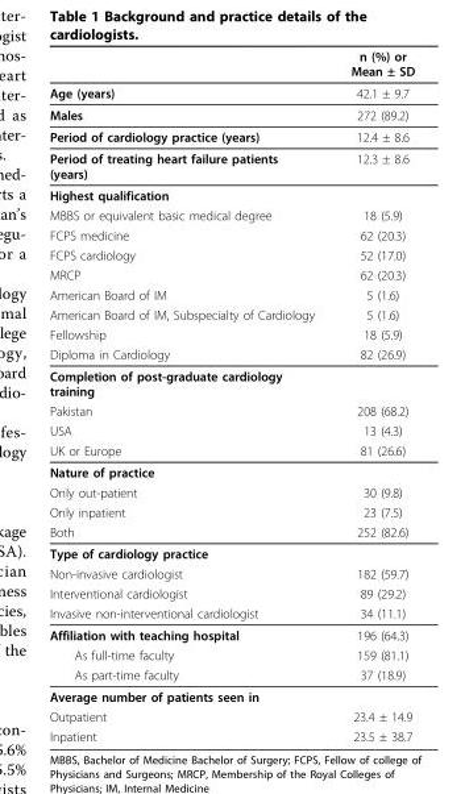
<table><thead><tr><td></td><td>n (%) or Mean ± SD</td></tr></thead><tbody><tr><td>Age (years)</td><td>42.1 ± 9.7</td></tr><tr><td>Males</td><td>272 (89.2)</td></tr><tr><td>Period of cardiology practice (years)</td><td>12.4 ± 8.6</td></tr><tr><td>Period of treating heart failure patients (years)</td><td>12.3 ± 8.6</td></tr><tr><td colspan="2">Highest qualification</td></tr><tr><td>MBBS or equivalent basic medical degree</td><td>18 (5.9)</td></tr><tr><td>FCPS medicine</td><td>62 (20.3)</td></tr><tr><td>FCPS cardiology</td><td>52 (17.0)</td></tr><tr><td>MRCP</td><td>62 (20.3)</td></tr><tr><td>American Board of IM</td><td>5 (1.6)</td></tr><tr><td>American Board of IM, Subspecialty of Cardiology</td><td>5 (1.6)</td></tr><tr><td>Fellowship</td><td>18 (5.9)</td></tr><tr><td>Diploma in Cardiology</td><td>82 (26.9)</td></tr><tr><td colspan="2">Completion of post-graduate cardiology training</td></tr><tr><td>Pakistan</td><td>208 (68.2)</td></tr><tr><td>USA</td><td>13 (4.3)</td></tr><tr><td>UK or Europe</td><td>81 (26.6)</td></tr><tr><td colspan="2">Nature of practice</td></tr><tr><td>Only out-patient</td><td>30 (9.8)</td></tr><tr><td>Only inpatient</td><td>23 (7.5)</td></tr><tr><td>Both</td><td>252 (82.6)</td></tr><tr><td colspan="2">Type of cardiology practice</td></tr><tr><td>Non-invasive cardiologist</td><td>182 (59.7)</td></tr><tr><td>Interventional cardiologist</td><td>89 (29.2)</td></tr><tr><td>Invasive non-interventional cardiologist</td><td>34 (11.1)</td></tr><tr><td>Affiliation with teaching hospital</td><td>196 (64.3)</td></tr><tr><td>As full-time faculty</td><td>159 (81.1)</td></tr><tr><td>As part-time faculty</td><td>37 (18.9)</td></tr><tr><td colspan="2">Average number of patients seen in</td></tr><tr><td>Outpatient</td><td>23.4 ± 14.9</td></tr><tr><td>Inpatient</td><td>23.5 ± 38.7</td></tr></tbody></table>